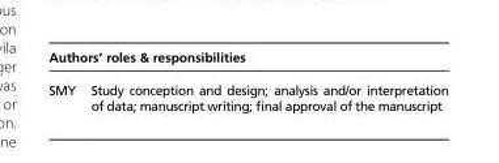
<table><thead><tr><td colspan="2">Authors’ roles &amp; responsibilities</td></tr><tr><td>SMY</td><td>Study conception and design; analysis and/or interpretation of data; manuscript writing; final approval of the manuscript</td></tr></thead><tbody></tbody></table>